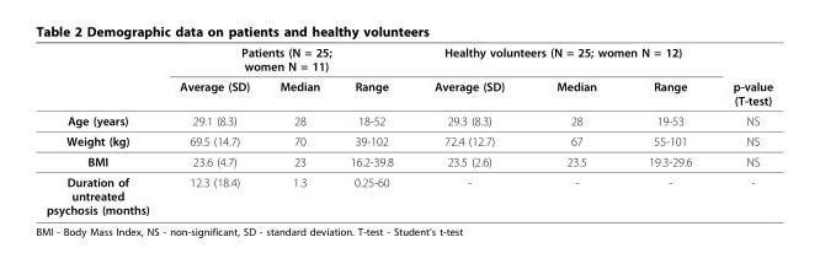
<table><thead><tr><td rowspan="2"></td><td colspan="3">Patients (N = 25; women N = 11)</td><td colspan="3">Healthy volunteers (N = 25; women N = 12)</td><td rowspan="2">p-value (T-test)</td></tr><tr><td>Average (SD)</td><td>Median</td><td>Range</td><td>Average (SD)</td><td>Median</td><td>Range</td></tr></thead><tbody><tr><td>Age (years)</td><td>29.1 (8.3)</td><td>28</td><td>18-52</td><td>29.3 (8.3)</td><td>28</td><td>19-53</td><td>NS</td></tr><tr><td>Weight (kg)</td><td>69.5 (14.7)</td><td>70</td><td>39-102</td><td>72.4 (12.7)</td><td>67</td><td>55-101</td><td>NS</td></tr><tr><td>BMI</td><td>23.6 (4.7)</td><td>23</td><td>16.2-39.8</td><td>23.5 (2.6)</td><td>23.5</td><td>19.3-29.6</td><td>NS</td></tr><tr><td>Duration of untreated psychosis (months)</td><td>12.3 (18.4)</td><td>1.3</td><td>0.25-60</td><td>-</td><td>-</td><td>-</td><td>-</td></tr></tbody></table>